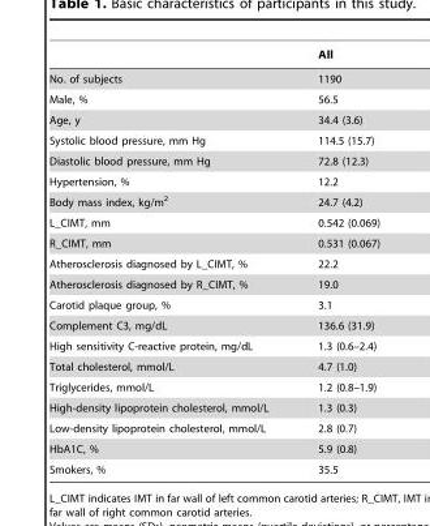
<table><thead><tr><td></td><td>All</td></tr></thead><tbody><tr><td>No. of subjects</td><td>1190</td></tr><tr><td>Male, %</td><td>56.5</td></tr><tr><td>Age, y</td><td>34.4 (3.6)</td></tr><tr><td>Systolic blood pressure, mm Hg</td><td>114.5 (15.7)</td></tr><tr><td>Diastolic blood pressure, mm Hg</td><td>72.8 (12.3)</td></tr><tr><td>Hypertension, %</td><td>12.2</td></tr><tr><td>Body mass index, kg/m<sup>2</sup></td><td>24.7 (4.2)</td></tr><tr><td>L_CIMT, mm</td><td>0.542 (0.069)</td></tr><tr><td>R_CIMT, mm</td><td>0.531 (0.067)</td></tr><tr><td>Atherosclerosis diagnosed by L_CIMT, %</td><td>22.2</td></tr><tr><td>Atherosclerosis diagnosed by R_CIMT, %</td><td>19.0</td></tr><tr><td>Carotid plaque group, %</td><td>3.1</td></tr><tr><td>Complement C3, mg/dL</td><td>136.6 (31.9)</td></tr><tr><td>High sensitivity C-reactive protein, mg/dL</td><td>1.3 (0.6–2.4)</td></tr><tr><td>Total cholesterol, mmol/L</td><td>4.7 (1.0)</td></tr><tr><td>Triglycerides, mmol/L</td><td>1.2 (0.8–1.9)</td></tr><tr><td>High-density lipoprotein cholesterol, mmol/L</td><td>1.3 (0.3)</td></tr><tr><td>Low-density lipoprotein cholesterol, mmol/L</td><td>2.8 (0.7)</td></tr><tr><td>HbA1C, %</td><td>5.9 (0.8)</td></tr><tr><td>Smokers, %</td><td>35.5</td></tr></tbody></table>